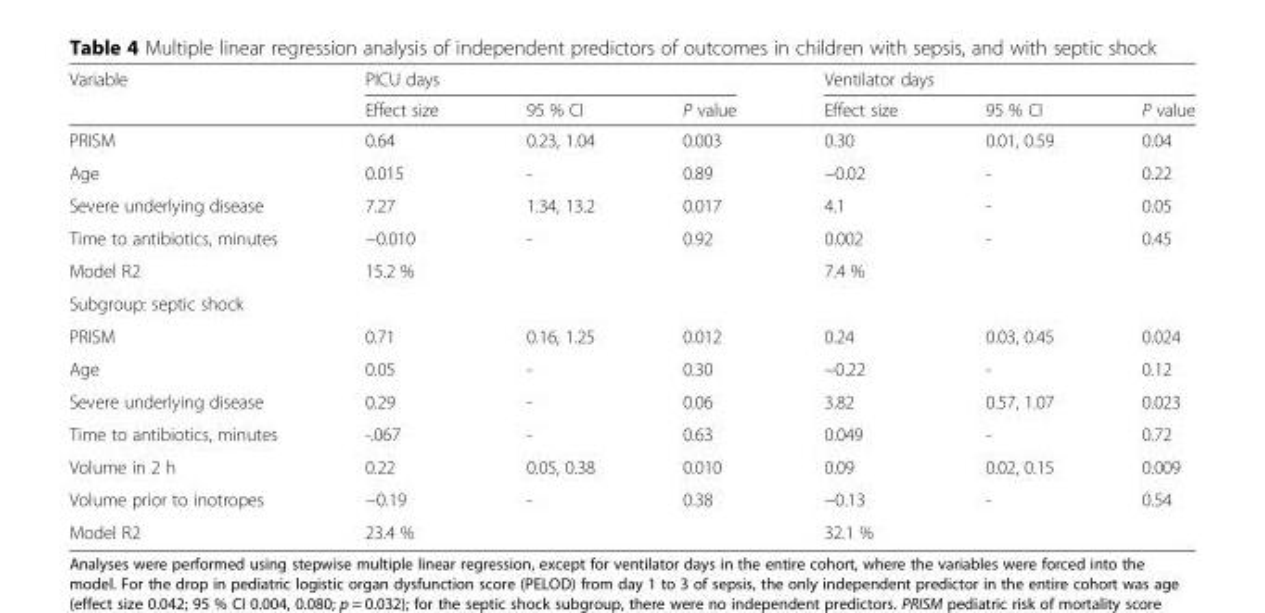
<table><thead><tr><td rowspan="2">Variable</td><td colspan="3">PICU days</td><td colspan="3">Ventilator days</td></tr><tr><td>Effect size</td><td>95 % CI</td><td>P value</td><td>Effect size</td><td>95 % CI</td><td>P value</td></tr></thead><tbody><tr><td>PRISM</td><td>0.64</td><td>0.23, 1.04</td><td>0.003</td><td>0.30</td><td>0.01, 0.59</td><td>0.04</td></tr><tr><td>Age</td><td>0.015</td><td>-</td><td>0.89</td><td>−0.02</td><td>-</td><td>0.22</td></tr><tr><td>Severe underlying disease</td><td>7.27</td><td>1.34, 13.2</td><td>0.017</td><td>4.1</td><td>-</td><td>0.05</td></tr><tr><td>Time to antibiotics, minutes</td><td>−0.010</td><td>-</td><td>0.92</td><td>0.002</td><td>-</td><td>0.45</td></tr><tr><td>Model R2</td><td>15.2 %</td><td></td><td></td><td>7.4 %</td><td></td><td></td></tr><tr><td colspan="7">Subgroup: septic shock</td></tr><tr><td>PRISM</td><td>0.71</td><td>0.16, 1.25</td><td>0.012</td><td>0.24</td><td>0.03, 0.45</td><td>0.024</td></tr><tr><td>Age</td><td>0.05</td><td>-</td><td>0.30</td><td>−0.22</td><td>-</td><td>0.12</td></tr><tr><td>Severe underlying disease</td><td>0.29</td><td>-</td><td>0.06</td><td>3.82</td><td>0.57, 1.07</td><td>0.023</td></tr><tr><td>Time to antibiotics, minutes</td><td>-.067</td><td>-</td><td>0.63</td><td>0.049</td><td>-</td><td>0.72</td></tr><tr><td>Volume in 2 h</td><td>0.22</td><td>0.05, 0.38</td><td>0.010</td><td>0.09</td><td>0.02, 0.15</td><td>0.009</td></tr><tr><td>Volume prior to inotropes</td><td>−0.19</td><td>-</td><td>0.38</td><td>−0.13</td><td>-</td><td>0.54</td></tr><tr><td>Model R2</td><td>23.4 %</td><td></td><td></td><td>32.1 %</td><td></td><td></td></tr></tbody></table>